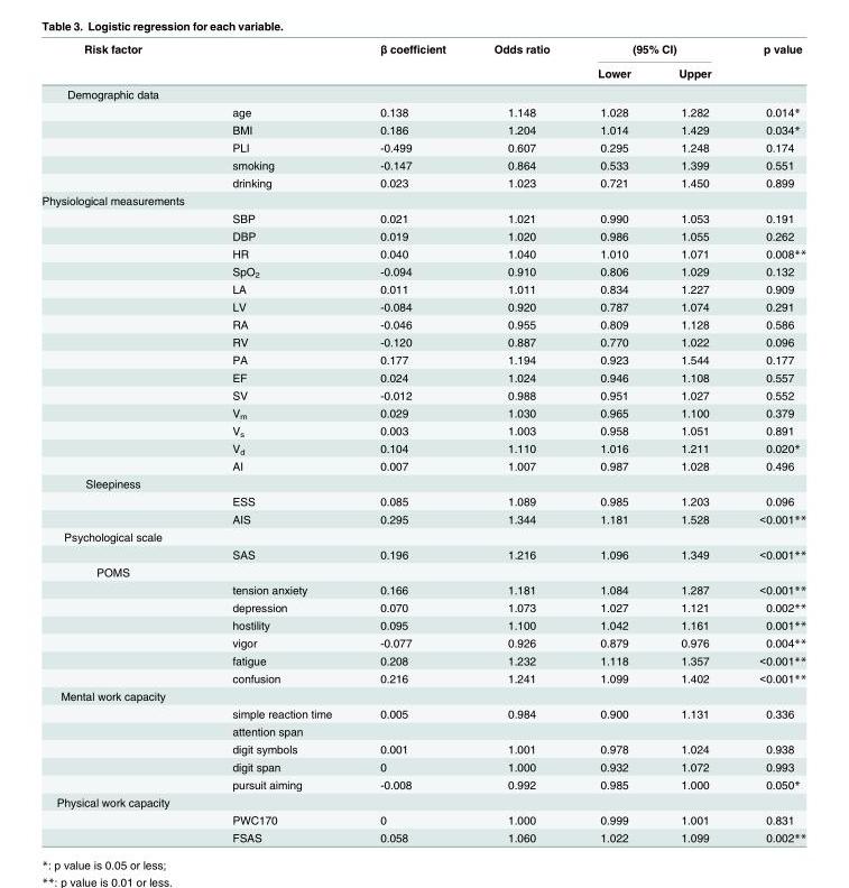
<table><thead><tr><td rowspan="2">Risk factor</td><td rowspan="2"></td><td rowspan="2">β coefficient</td><td rowspan="2">Odds ratio</td><td colspan="2">(95% CI)</td><td rowspan="2">p value</td></tr><tr><td>Lower</td><td>Upper</td></tr></thead><tbody><tr><td colspan="7">Demographic data</td></tr><tr><td></td><td>age</td><td>0.138</td><td>1.148</td><td>1.028</td><td>1.282</td><td>0.014*</td></tr><tr><td></td><td>BMI</td><td>0.186</td><td>1.204</td><td>1.014</td><td>1.429</td><td>0.034*</td></tr><tr><td></td><td>PLI</td><td>-0.499</td><td>0.607</td><td>0.295</td><td>1.248</td><td>0.174</td></tr><tr><td></td><td>smoking</td><td>-0.147</td><td>0.864</td><td>0.533</td><td>1.399</td><td>0.551</td></tr><tr><td></td><td>drinking</td><td>0.023</td><td>1.023</td><td>0.721</td><td>1.450</td><td>0.899</td></tr><tr><td colspan="7">Physiological measurements</td></tr><tr><td></td><td>SBP</td><td>0.021</td><td>1.021</td><td>0.990</td><td>1.053</td><td>0.191</td></tr><tr><td></td><td>DBP</td><td>0.019</td><td>1.020</td><td>0.986</td><td>1.055</td><td>0.262</td></tr><tr><td></td><td>HR</td><td>0.040</td><td>1.040</td><td>1.010</td><td>1.071</td><td>0.008**</td></tr><tr><td></td><td>SpO<sub>2</sub></td><td>-0.094</td><td>0.910</td><td>0.806</td><td>1.029</td><td>0.132</td></tr><tr><td></td><td>LA</td><td>0.011</td><td>1.011</td><td>0.834</td><td>1.227</td><td>0.909</td></tr><tr><td></td><td>LV</td><td>-0.084</td><td>0.920</td><td>0.787</td><td>1.074</td><td>0.291</td></tr><tr><td></td><td>RA</td><td>-0.046</td><td>0.955</td><td>0.809</td><td>1.128</td><td>0.586</td></tr><tr><td></td><td>RV</td><td>-0.120</td><td>0.887</td><td>0.770</td><td>1.022</td><td>0.096</td></tr><tr><td></td><td>PA</td><td>0.177</td><td>1.194</td><td>0.923</td><td>1.544</td><td>0.177</td></tr><tr><td></td><td>EF</td><td>0.024</td><td>1.024</td><td>0.946</td><td>1.108</td><td>0.557</td></tr><tr><td></td><td>SV</td><td>-0.012</td><td>0.988</td><td>0.951</td><td>1.027</td><td>0.552</td></tr><tr><td></td><td>V<sub>m</sub></td><td>0.029</td><td>1.030</td><td>0.965</td><td>1.100</td><td>0.379</td></tr><tr><td></td><td>V<sub>s</sub></td><td>0.003</td><td>1.003</td><td>0.958</td><td>1.051</td><td>0.891</td></tr><tr><td></td><td>V<sub>d</sub></td><td>0.104</td><td>1.110</td><td>1.016</td><td>1.211</td><td>0.020*</td></tr><tr><td></td><td>AI</td><td>0.007</td><td>1.007</td><td>0.987</td><td>1.028</td><td>0.496</td></tr><tr><td colspan="7">Sleepiness</td></tr><tr><td></td><td>ESS</td><td>0.085</td><td>1.089</td><td>0.985</td><td>1.203</td><td>0.096</td></tr><tr><td></td><td>AIS</td><td>0.295</td><td>1.344</td><td>1.181</td><td>1.528</td><td>&lt;0.001**</td></tr><tr><td colspan="7">Psychological scale</td></tr><tr><td></td><td>SAS</td><td>0.196</td><td>1.216</td><td>1.096</td><td>1.349</td><td>&lt;0.001**</td></tr><tr><td colspan="7">POMS</td></tr><tr><td></td><td>tension anxiety</td><td>0.166</td><td>1.181</td><td>1.084</td><td>1.287</td><td>&lt;0.001**</td></tr><tr><td></td><td>depression</td><td>0.070</td><td>1.073</td><td>1.027</td><td>1.121</td><td>0.002**</td></tr><tr><td></td><td>hostility</td><td>0.095</td><td>1.100</td><td>1.042</td><td>1.161</td><td>0.001**</td></tr><tr><td></td><td>vigor</td><td>-0.077</td><td>0.926</td><td>0.879</td><td>0.976</td><td>0.004**</td></tr><tr><td></td><td>fatigue</td><td>0.208</td><td>1.232</td><td>1.118</td><td>1.357</td><td>&lt;0.001**</td></tr><tr><td></td><td>confusion</td><td>0.216</td><td>1.241</td><td>1.099</td><td>1.402</td><td>&lt;0.001**</td></tr><tr><td colspan="7">Mental work capacity</td></tr><tr><td></td><td>simple reaction time</td><td>0.005</td><td>0.984</td><td>0.900</td><td>1.131</td><td>0.336</td></tr><tr><td></td><td>attention span</td><td></td><td></td><td></td><td></td><td></td></tr><tr><td></td><td>digit symbols</td><td>0.001</td><td>1.001</td><td>0.978</td><td>1.024</td><td>0.938</td></tr><tr><td></td><td>digit span</td><td>0</td><td>1.000</td><td>0.932</td><td>1.072</td><td>0.993</td></tr><tr><td></td><td>pursuit aiming</td><td>-0.008</td><td>0.992</td><td>0.985</td><td>1.000</td><td>0.050*</td></tr><tr><td colspan="7">Physical work capacity</td></tr><tr><td></td><td>PWC170</td><td>0</td><td>1.000</td><td>0.999</td><td>1.001</td><td>0.831</td></tr><tr><td></td><td>FSAS</td><td>0.058</td><td>1.060</td><td>1.022</td><td>1.099</td><td>0.002**</td></tr></tbody></table>